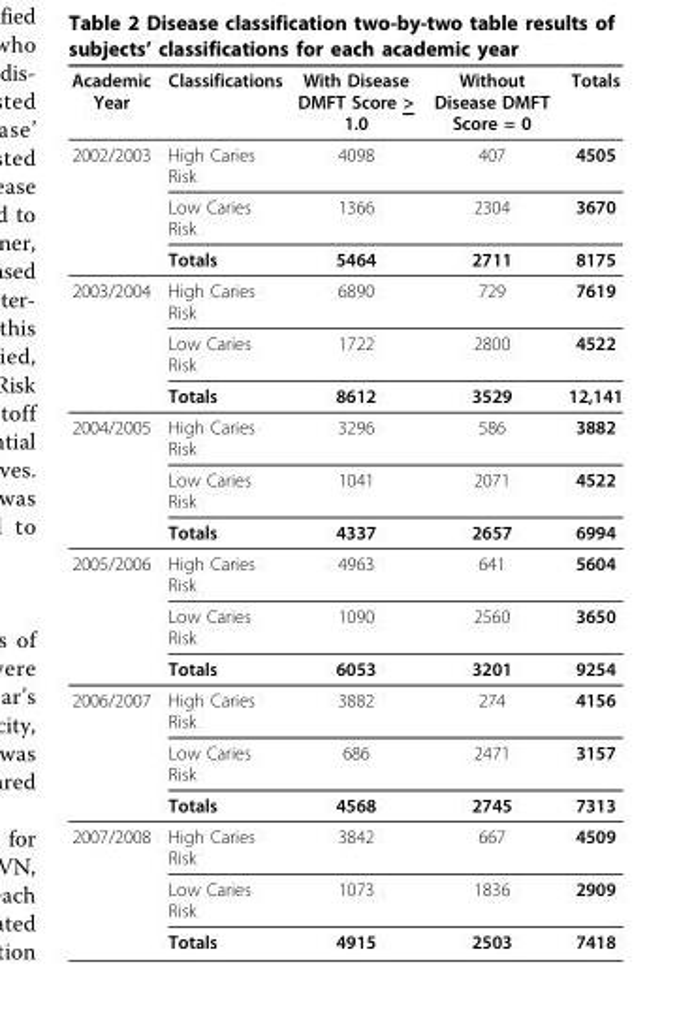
<table><thead><tr><td>Academic Year</td><td>Classifications</td><td>With Disease DMFT Score &gt; 1.0</td><td>Without Disease DMFT Score = 0</td><td>Totals</td></tr></thead><tbody><tr><td rowspan="3">2002/2003</td><td>High Caries Risk</td><td>4098</td><td>407</td><td>4505</td></tr><tr><td>Low Caries Risk</td><td>1366</td><td>2304</td><td>3670</td></tr><tr><td>Totals</td><td>5464</td><td>2711</td><td>8175</td></tr><tr><td rowspan="3">2003/2004</td><td>High Caries Risk</td><td>6890</td><td>729</td><td>7619</td></tr><tr><td>Low Caries Risk</td><td>1722</td><td>2800</td><td>4522</td></tr><tr><td>Totals</td><td>8612</td><td>3529</td><td>12,141</td></tr><tr><td rowspan="3">2004/2005</td><td>High Caries Risk</td><td>3296</td><td>586</td><td>3882</td></tr><tr><td>Low Caries Risk</td><td>1041</td><td>2071</td><td>4522</td></tr><tr><td>Totals</td><td>4337</td><td>2657</td><td>6994</td></tr><tr><td rowspan="3">2005/2006</td><td>High Caries Risk</td><td>4963</td><td>641</td><td>5604</td></tr><tr><td>Low Caries Risk</td><td>1090</td><td>2560</td><td>3650</td></tr><tr><td>Totals</td><td>6053</td><td>3201</td><td>9254</td></tr><tr><td rowspan="3">2006/2007</td><td>High Caries Risk</td><td>3882</td><td>274</td><td>4156</td></tr><tr><td>Low Caries Risk</td><td>686</td><td>2471</td><td>3157</td></tr><tr><td>Totals</td><td>4568</td><td>2745</td><td>7313</td></tr><tr><td rowspan="3">2007/2008</td><td>High Caries Risk</td><td>3842</td><td>667</td><td>4509</td></tr><tr><td>Low Caries Risk</td><td>1073</td><td>1836</td><td>2909</td></tr><tr><td>Totals</td><td>4915</td><td>2503</td><td>7418</td></tr></tbody></table>